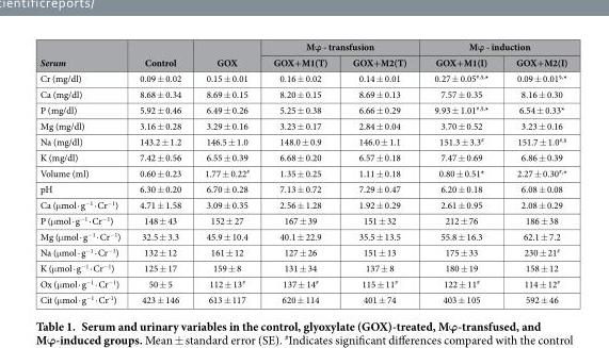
<table><thead><tr><td rowspan="2">Serum</td><td rowspan="2">Control</td><td rowspan="2">GOX</td><td colspan="2">Mϕ - transfusion</td><td colspan="2">Mϕ - induction</td></tr><tr><td>GOX+M1(T)</td><td>GOX+M2(T)</td><td>GOX+M1(I)</td><td>GOX+M2(I)</td></tr></thead><tbody><tr><td>Cr (mg/dl)</td><td>0.09 ± 0.02</td><td>0.15 ± 0.01</td><td>0.16 ± 0.02</td><td>0.14 ± 0.01</td><td>0.27 ± 0.05<sup>#,§,</sup>*</td><td>0.09 ± 0.01<sup>§,</sup>*</td></tr><tr><td>Ca (mg/dl)</td><td>8.68 ± 0.34</td><td>8.69 ± 0.15</td><td>8.20 ± 0.15</td><td>8.69 ± 0.13</td><td>7.57 ± 0.35</td><td>8.16 ± 0.30</td></tr><tr><td>P (mg/dl)</td><td>5.92 ± 0.46</td><td>6.49 ± 0.26</td><td>5.25 ± 0.38</td><td>6.66 ± 0.29</td><td>9.93 ± 1.01<sup>#,§,</sup>*</td><td>6.54 ± 0.33*</td></tr><tr><td>Mg (mg/dl)</td><td>3.16 ± 0.28</td><td>3.29 ± 0.16</td><td>3.23 ± 0.17</td><td>2.84 ± 0.04</td><td>3.70 ± 0.52</td><td>3.23 ± 0.16</td></tr><tr><td>Na (mg/dl)</td><td>143.2 ± 1.2</td><td>146.5 ± 1.0</td><td>148.0 ± 0.9</td><td>146.0 ± 1.1</td><td>151.3 ± 3.3<sup>#</sup></td><td>151.7 ± 1.0<sup>#,§</sup></td></tr><tr><td>K (mg/dl)</td><td>7.42 ± 0.56</td><td>6.55 ± 0.39</td><td>6.68 ± 0.20</td><td>6.57 ± 0.18</td><td>7.47 ± 0.69</td><td>6.86 ± 0.39</td></tr><tr><td>Volume (ml)</td><td>0.60 ± 0.23</td><td>1.77 ± 0.22<sup>#</sup></td><td>1.35 ± 0.25</td><td>1.11 ± 0.18</td><td>0.80 ± 0.51*</td><td>2.27 ± 0.30<sup>#,</sup>*</td></tr><tr><td>pH</td><td>6.30 ± 0.20</td><td>6.70 ± 0.28</td><td>7.13 ± 0.72</td><td>7.29 ± 0.47</td><td>6.20 ± 0.18</td><td>6.08 ± 0.08</td></tr><tr><td>Ca (μ mol · g<sup>−1</sup> · Cr<sup>−1</sup>)</td><td>4.71 ± 1.58</td><td>3.09 ± 0.35</td><td>2.56 ± 1.28</td><td>1.92 ± 0.29</td><td>2.61 ± 0.95</td><td>2.08 ± 0.29</td></tr><tr><td>P (μ mol · g<sup>−1</sup> · Cr<sup>−1</sup>)</td><td>148 ± 43</td><td>152 ± 27</td><td>167 ± 39</td><td>151 ± 32</td><td>212 ± 76</td><td>186 ± 38</td></tr><tr><td>Mg (μ mol · g<sup>−1</sup> · Cr<sup>−1</sup>)</td><td>32.5 ± 3.3</td><td>45.9 ± 10.4</td><td>40.1 ± 22.9</td><td>35.5 ± 13.5</td><td>55.8 ± 16.3</td><td>62.1 ± 7.2</td></tr><tr><td>Na (μ mol · g<sup>−1</sup> · Cr<sup>−1</sup>)</td><td>132 ± 12</td><td>161 ± 12</td><td>127 ± 26</td><td>151 ± 13</td><td>175 ± 33</td><td>230 ± 21<sup>#</sup></td></tr><tr><td>K (μ mol · g<sup>−1</sup> · Cr<sup>−1</sup>)</td><td>125 ± 17</td><td>159 ± 8</td><td>131 ± 34</td><td>137 ± 8</td><td>180 ± 19</td><td>158 ± 12</td></tr><tr><td>Ox (μ mol · g<sup>−1</sup> · Cr<sup>−1</sup>)</td><td>50 ± 5</td><td>112 ± 13<sup>#</sup></td><td>137 ± 14<sup>#</sup></td><td>115 ± 11<sup>#</sup></td><td>122 ± 11<sup>#</sup></td><td>114 ± 12<sup>#</sup></td></tr><tr><td>Cit (μ mol · g<sup>−1</sup> · Cr<sup>-1</sup>)</td><td>423 ± 146</td><td>613 ± 117</td><td>620 ± 114</td><td>401 ± 74</td><td>403 ± 105</td><td>592 ± 46</td></tr></tbody></table>